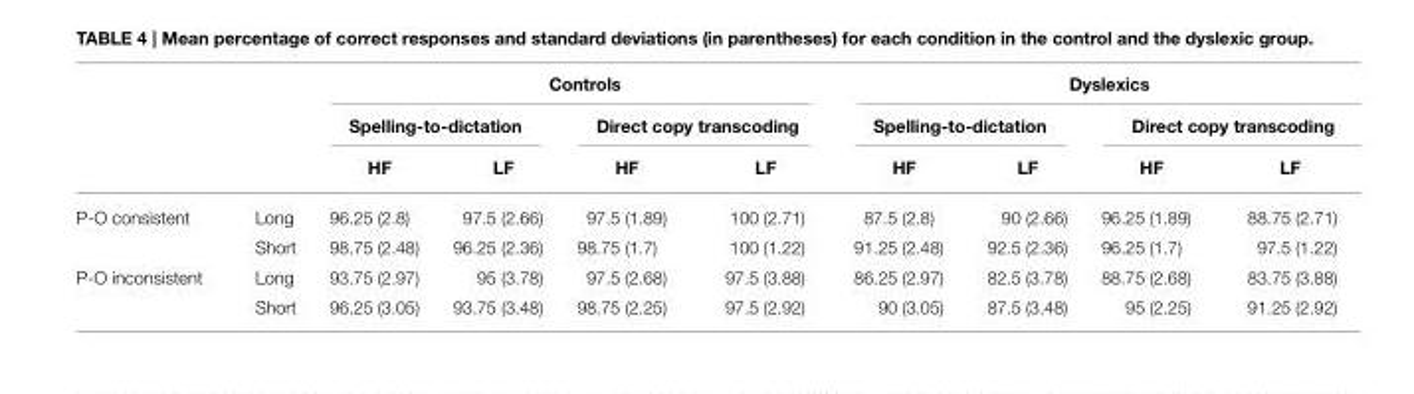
<table><thead><tr><td rowspan="3"></td><td rowspan="3"></td><td colspan="4">Controls</td><td colspan="4">Dyslexics</td></tr><tr><td colspan="2">Spelling-to-dictation</td><td colspan="2">Direct copy transcoding</td><td colspan="2">Spelling-to-dictation</td><td colspan="2">Direct copy transcoding</td></tr><tr><td>HF</td><td>LF</td><td>HF</td><td>LF</td><td>HF</td><td>LF</td><td>HF</td><td>LF</td></tr></thead><tbody><tr><td rowspan="2">P-O consistent</td><td>Long</td><td>96.25 (2.8)</td><td>97.5 (2.66)</td><td>97.5 (1.89)</td><td>100 (2.71)</td><td>87.5 (2.8)</td><td>90 (2.66)</td><td>96.25 (1.89)</td><td>88.75 (2.71)</td></tr><tr><td>Short</td><td>98.75 (2.48)</td><td>96.25 (2.36)</td><td>98.75 (1.7)</td><td>100 (1.22)</td><td>91.25 (2.48)</td><td>92.5 (2.36)</td><td>96.25 (1.7)</td><td>97.5 (1.22)</td></tr><tr><td rowspan="2">P-O inconsistent</td><td>Long</td><td>93.75 (2.97)</td><td>95 (3.78)</td><td>97.5 (2.68)</td><td>97.5 (3.88)</td><td>86.25 (2.97)</td><td>82.5 (3.78)</td><td>88.75 (2.68)</td><td>83.75 (3.88)</td></tr><tr><td>Short</td><td>96.25 (3.05)</td><td>93.75 (3.48)</td><td>98.75 (2.25)</td><td>97.5 (2.92)</td><td>90 (3.05)</td><td>87.5 (3.48)</td><td>95 (2.25)</td><td>91.25 (2.92)</td></tr></tbody></table>